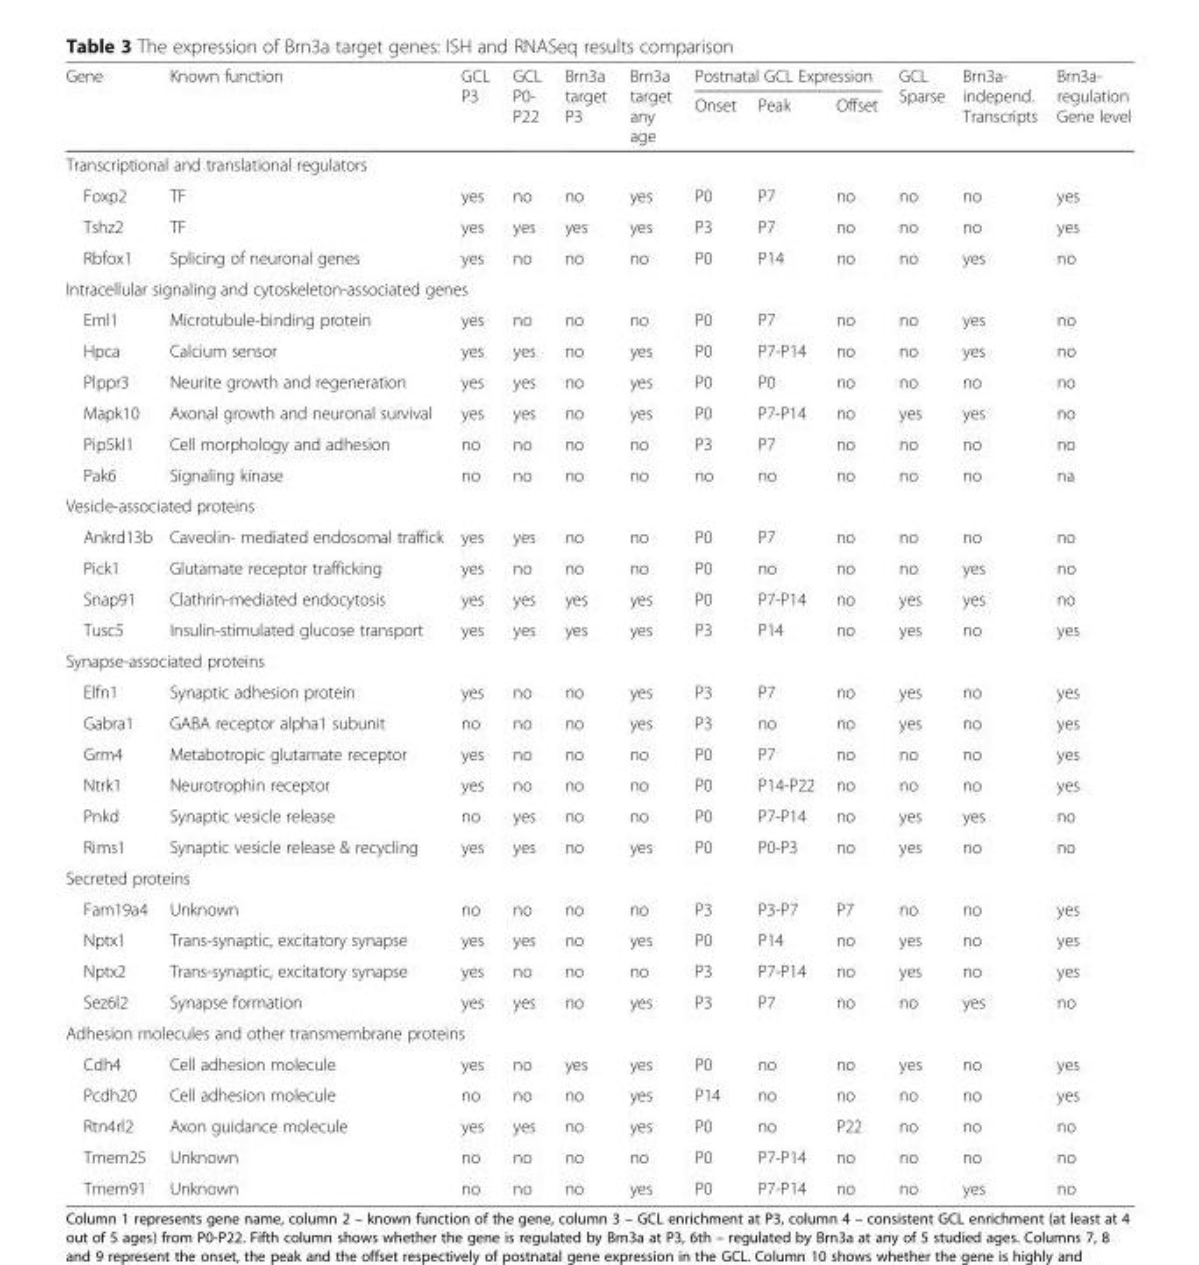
<table><thead><tr><td rowspan="2">Gene</td><td rowspan="2">Known function</td><td rowspan="2">GCL P3</td><td rowspan="2">GCL P0- P22</td><td rowspan="2">Brn3a target P3</td><td rowspan="2">Brn3a target any age</td><td colspan="3">Postnatal GCL Expression</td><td rowspan="2">GCL Sparse</td><td rowspan="2">Brn3a- independ. Transcripts</td><td rowspan="2">Brn3a- regulation Gene level</td></tr><tr><td>Onset</td><td>Peak</td><td>Offset</td></tr></thead><tbody><tr><td colspan="12">Transcriptional and translational regulators</td></tr><tr><td>Foxp2</td><td>TF</td><td>yes</td><td>no</td><td>no</td><td>yes</td><td>P0</td><td>P7</td><td>no</td><td>no</td><td>no</td><td>yes</td></tr><tr><td>Tshz2</td><td>TF</td><td>yes</td><td>yes</td><td>yes</td><td>yes</td><td>P3</td><td>P7</td><td>no</td><td>no</td><td>no</td><td>yes</td></tr><tr><td>Rbfox1</td><td>Splicing of neuronal genes</td><td>yes</td><td>no</td><td>no</td><td>no</td><td>P0</td><td>P14</td><td>no</td><td>no</td><td>yes</td><td>no</td></tr><tr><td colspan="12">Intracellular signaling and cytoskeleton-associated genes</td></tr><tr><td>Eml1</td><td>Microtubule-binding protein</td><td>yes</td><td>no</td><td>no</td><td>no</td><td>P0</td><td>P7</td><td>no</td><td>no</td><td>yes</td><td>no</td></tr><tr><td>Hpca</td><td>Calcium sensor</td><td>yes</td><td>yes</td><td>no</td><td>yes</td><td>P0</td><td>P7-P14</td><td>no</td><td>no</td><td>yes</td><td>no</td></tr><tr><td>Plppr3</td><td>Neurite growth and regeneration</td><td>yes</td><td>yes</td><td>no</td><td>yes</td><td>P0</td><td>P0</td><td>no</td><td>no</td><td>no</td><td>no</td></tr><tr><td>Mapk10</td><td>Axonal growth and neuronal survival</td><td>yes</td><td>yes</td><td>no</td><td>yes</td><td>P0</td><td>P7-P14</td><td>no</td><td>yes</td><td>yes</td><td>no</td></tr><tr><td>Pip5kl1</td><td>Cell morphology and adhesion</td><td>no</td><td>no</td><td>no</td><td>no</td><td>P3</td><td>P7</td><td>no</td><td>no</td><td>no</td><td>no</td></tr><tr><td>Pak6</td><td>Signaling kinase</td><td>no</td><td>no</td><td>no</td><td>no</td><td>no</td><td>no</td><td>no</td><td>no</td><td>no</td><td>na</td></tr><tr><td colspan="12">Vesicle-associated proteins</td></tr><tr><td>Ankrd13b</td><td>Caveolin- mediated endosomal traffick</td><td>yes</td><td>yes</td><td>no</td><td>no</td><td>P0</td><td>P7</td><td>no</td><td>no</td><td>no</td><td>no</td></tr><tr><td>Pick1</td><td>Glutamate receptor trafficking</td><td>yes</td><td>no</td><td>no</td><td>no</td><td>P0</td><td>no</td><td>no</td><td>no</td><td>yes</td><td>no</td></tr><tr><td>Snap91</td><td>Clathrin-mediated endocytosis</td><td>yes</td><td>yes</td><td>yes</td><td>yes</td><td>P0</td><td>P7-P14</td><td>no</td><td>yes</td><td>yes</td><td>no</td></tr><tr><td>Tusc5</td><td>Insulin-stimulated glucose transport</td><td>yes</td><td>yes</td><td>yes</td><td>yes</td><td>P3</td><td>P14</td><td>no</td><td>yes</td><td>no</td><td>yes</td></tr><tr><td colspan="12">Synapse-associated proteins</td></tr><tr><td>Elfn1</td><td>Synaptic adhesion protein</td><td>yes</td><td>no</td><td>no</td><td>yes</td><td>P3</td><td>P7</td><td>no</td><td>yes</td><td>no</td><td>yes</td></tr><tr><td>Gabra1</td><td>GABA receptor alpha1 subunit</td><td>no</td><td>no</td><td>no</td><td>yes</td><td>P3</td><td>no</td><td>no</td><td>yes</td><td>no</td><td>yes</td></tr><tr><td>Grm4</td><td>Metabotropic glutamate receptor</td><td>yes</td><td>no</td><td>no</td><td>no</td><td>P0</td><td>P7</td><td>no</td><td>no</td><td>no</td><td>yes</td></tr><tr><td>Ntrk1</td><td>Neurotrophin receptor</td><td>yes</td><td>no</td><td>no</td><td>no</td><td>P0</td><td>P14-P22</td><td>no</td><td>no</td><td>no</td><td>yes</td></tr><tr><td>Pnkd</td><td>Synaptic vesicle release</td><td>no</td><td>yes</td><td>no</td><td>no</td><td>P0</td><td>P7-P14</td><td>no</td><td>yes</td><td>yes</td><td>no</td></tr><tr><td>Rims1</td><td>Synaptic vesicle release &amp; recycling</td><td>yes</td><td>yes</td><td>no</td><td>yes</td><td>P0</td><td>P0-P3</td><td>no</td><td>yes</td><td>no</td><td>no</td></tr><tr><td colspan="12">Secreted proteins</td></tr><tr><td>Fam19a4</td><td>Unknown</td><td>no</td><td>no</td><td>no</td><td>no</td><td>P3</td><td>P3-P7</td><td>P7</td><td>no</td><td>no</td><td>yes</td></tr><tr><td>Nptx1</td><td>Trans-synaptic, excitatory synapse</td><td>yes</td><td>yes</td><td>no</td><td>yes</td><td>P0</td><td>P14</td><td>no</td><td>yes</td><td>no</td><td>yes</td></tr><tr><td>Nptx2</td><td>Trans-synaptic, excitatory synapse</td><td>yes</td><td>no</td><td>no</td><td>no</td><td>P3</td><td>P7-P14</td><td>no</td><td>yes</td><td>no</td><td>yes</td></tr><tr><td>Sez6l2</td><td>Synapse formation</td><td>yes</td><td>yes</td><td>no</td><td>yes</td><td>P3</td><td>P7</td><td>no</td><td>no</td><td>yes</td><td>no</td></tr><tr><td colspan="12">Adhesion molecules and other transmembrane proteins</td></tr><tr><td>Cdh4</td><td>Cell adhesion molecule</td><td>yes</td><td>no</td><td>yes</td><td>yes</td><td>P0</td><td>no</td><td>no</td><td>yes</td><td>no</td><td>yes</td></tr><tr><td>Pcdh20</td><td>Cell adhesion molecule</td><td>no</td><td>no</td><td>no</td><td>yes</td><td>P14</td><td>no</td><td>no</td><td>no</td><td>no</td><td>yes</td></tr><tr><td>Rtn4rl2</td><td>Axon guidance molecule</td><td>yes</td><td>yes</td><td>no</td><td>yes</td><td>P0</td><td>no</td><td>P22</td><td>no</td><td>no</td><td>no</td></tr><tr><td>Tmem25</td><td>Unknown</td><td>no</td><td>no</td><td>no</td><td>no</td><td>P0</td><td>P7-P14</td><td>no</td><td>no</td><td>no</td><td>no</td></tr><tr><td>Tmem91</td><td>Unknown</td><td>no</td><td>no</td><td>no</td><td>yes</td><td>P0</td><td>P7-P14</td><td>no</td><td>no</td><td>yes</td><td>no</td></tr></tbody></table>